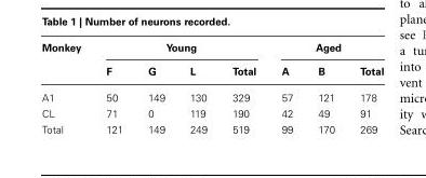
<table><thead><tr><td rowspan="2">Monkey</td><td colspan="4">Young</td><td colspan="3">Aged</td></tr><tr><td>F</td><td>G</td><td>L</td><td>Total</td><td>A</td><td>B</td><td>Total</td></tr></thead><tbody><tr><td>A1</td><td>50</td><td>149</td><td>130</td><td>329</td><td>57</td><td>121</td><td>178</td></tr><tr><td>CL</td><td>71</td><td>0</td><td>119</td><td>190</td><td>42</td><td>49</td><td>91</td></tr><tr><td>Total</td><td>121</td><td>149</td><td>249</td><td>519</td><td>99</td><td>170</td><td>269</td></tr></tbody></table>